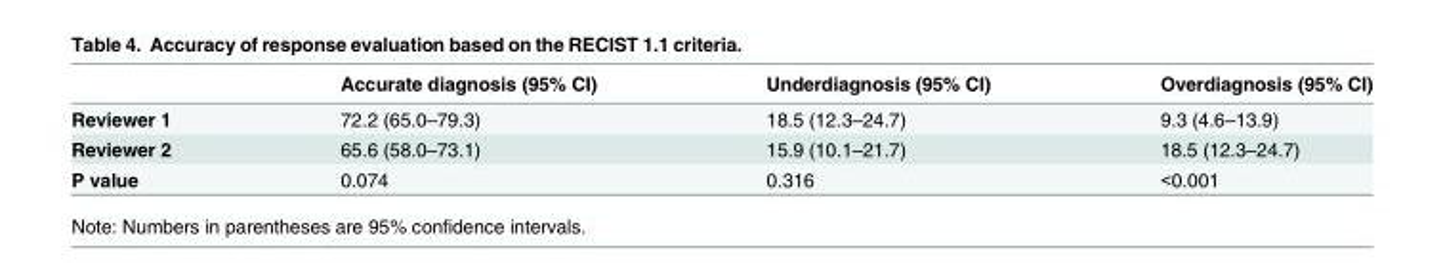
<table><thead><tr><td></td><td>Accurate diagnosis (95% CI)</td><td>Underdiagnosis (95% CI)</td><td>Overdiagnosis (95% CI)</td></tr></thead><tbody><tr><td>Reviewer 1</td><td>72.2 (65.0–79.3)</td><td>18.5 (12.3–24.7)</td><td>9.3 (4.6–13.9)</td></tr><tr><td>Reviewer 2</td><td>65.6 (58.0–73.1)</td><td>15.9 (10.1–21.7)</td><td>18.5 (12.3–24.7)</td></tr><tr><td>P value</td><td>0.074</td><td>0.316</td><td>&lt;0.001</td></tr></tbody></table>